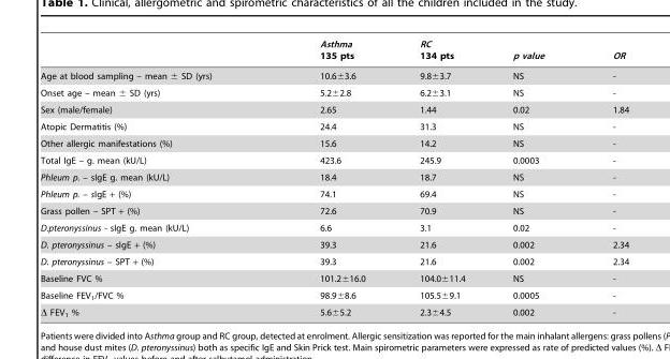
<table><thead><tr><td></td><td>Asthma 135 pts</td><td>RC 134 pts</td><td>p value</td><td>OR</td></tr></thead><tbody><tr><td>Age at blood sampling – mean ± SD (yrs)</td><td>10.6±3.6</td><td>9.8±3.7</td><td>NS</td><td>-</td></tr><tr><td>Onset age – mean ± SD (yrs)</td><td>5.2±2.8</td><td>6.2±3.1</td><td>NS</td><td>-</td></tr><tr><td>Sex (male/female)</td><td>2.65</td><td>1.44</td><td>0.02</td><td>1.84</td></tr><tr><td>Atopic Dermatitis (%)</td><td>24.4</td><td>31.3</td><td>NS</td><td>-</td></tr><tr><td>Other allergic manifestations (%)</td><td>15.6</td><td>14.2</td><td>NS</td><td>-</td></tr><tr><td>Total IgE – g. mean (kU/L)</td><td>423.6</td><td>245.9</td><td>0.0003</td><td>-</td></tr><tr><td>Phleum p. – sIgE g. mean (kU/L)</td><td>18.4</td><td>18.7</td><td>NS</td><td>-</td></tr><tr><td>Phleum p. – sIgE + (%)</td><td>74.1</td><td>69.4</td><td>NS</td><td>-</td></tr><tr><td>Grass pollen – SPT + (%)</td><td>72.6</td><td>70.9</td><td>NS</td><td>-</td></tr><tr><td>D.pteronyssinus - sIgE g. mean (kU/L)</td><td>6.6</td><td>3.1</td><td>0.02</td><td>-</td></tr><tr><td>D. pteronyssinus – sIgE + (%)</td><td>39.3</td><td>21.6</td><td>0.002</td><td>2.34</td></tr><tr><td>D. pteronyssinus – SPT + (%)</td><td>39.3</td><td>21.6</td><td>0.002</td><td>2.34</td></tr><tr><td>Baseline FVC %</td><td>101.2±16.0</td><td>104.0±11.4</td><td>NS</td><td>-</td></tr><tr><td>Baseline FEV<sub>1</sub>/FVC %</td><td>98.9±8.6</td><td>105.5±9.1</td><td>0.0005</td><td>-</td></tr><tr><td>Δ FEV<sub>1</sub> %</td><td>5.6±5.2</td><td>2.3±4.5</td><td>0.002</td><td>-</td></tr></tbody></table>